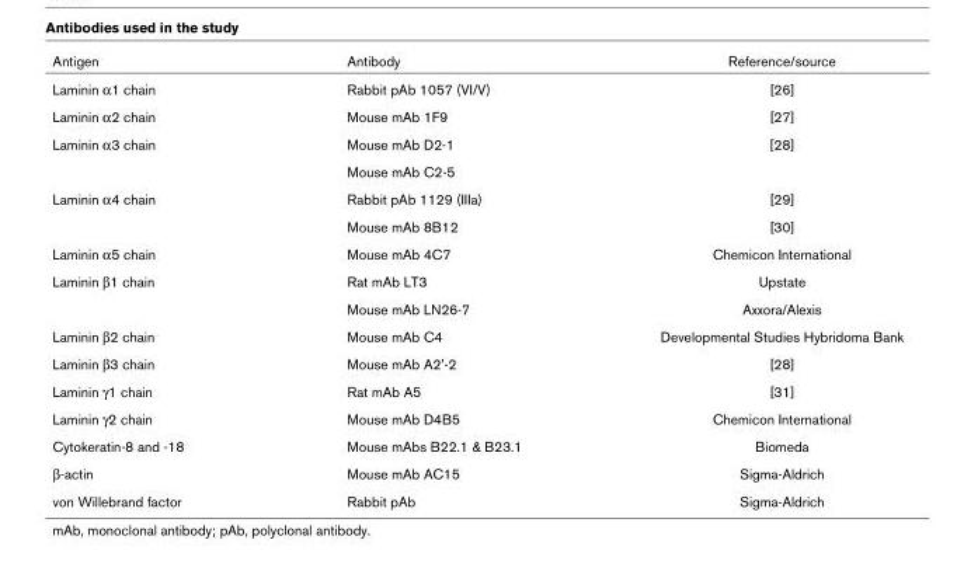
<table><thead><tr><td>Antigen</td><td>Antibody</td><td>Reference/source</td></tr></thead><tbody><tr><td>Laminin α1 chain</td><td>Rabbit pAb 1057 (VI/V)</td><td>[26]</td></tr><tr><td>Laminin α2 chain</td><td>Mouse mAb 1F9</td><td>[27]</td></tr><tr><td rowspan="2">Laminin α3 chain</td><td>Mouse mAb D2-1</td><td>[28]</td></tr><tr><td>Mouse mAb C2-5</td><td></td></tr><tr><td rowspan="2">Laminin α4 chain</td><td>Rabbit pAb 1129 (IIIa)</td><td>[29]</td></tr><tr><td>Mouse mAb 8B12</td><td>[30]</td></tr><tr><td>Laminin α5 chain</td><td>Mouse mAb 4C7</td><td>Chemicon International</td></tr><tr><td rowspan="2">Laminin β1 chain</td><td>Rat mAb LT3</td><td>Upstate</td></tr><tr><td>Mouse mAb LN26-7</td><td>Axxora/Alexis</td></tr><tr><td>Laminin β2 chain</td><td>Mouse mAb C4</td><td>Developmental Studies Hybridoma Bank</td></tr><tr><td>Laminin β3 chain</td><td>Mouse mAb A2&#x27;-2</td><td>[28]</td></tr><tr><td>Laminin γ1 chain</td><td>Rat mAb A5</td><td>[31]</td></tr><tr><td>Laminin γ2 chain</td><td>Mouse mAb D4B5</td><td>Chemicon International</td></tr><tr><td>Cytokeratin-8 and -18</td><td>Mouse mAbs B22.1 &amp; B23.1</td><td>Biomeda</td></tr><tr><td>β-actin</td><td>Mouse mAb AC15</td><td>Sigma-Aldrich</td></tr><tr><td>von Willebrand factor</td><td>Rabbit pAb</td><td>Sigma-Aldrich</td></tr></tbody></table>